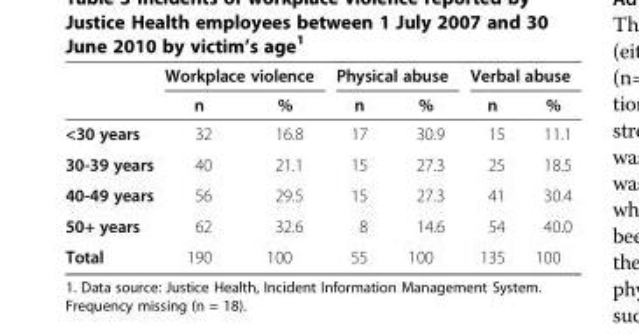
<table><thead><tr><td rowspan="2"></td><td colspan="2">Workplace violence</td><td colspan="2">Physical abuse</td><td colspan="2">Verbal abuse</td></tr><tr><td>n</td><td>%</td><td>n</td><td>%</td><td>n</td><td>%</td></tr></thead><tbody><tr><td>&lt;30 years</td><td>32</td><td>16.8</td><td>17</td><td>30.9</td><td>15</td><td>11.1</td></tr><tr><td>30-39 years</td><td>40</td><td>21.1</td><td>15</td><td>27.3</td><td>25</td><td>18.5</td></tr><tr><td>40-49 years</td><td>56</td><td>29.5</td><td>15</td><td>27.3</td><td>41</td><td>30.4</td></tr><tr><td>50+ years</td><td>62</td><td>32.6</td><td>8</td><td>14.6</td><td>54</td><td>40.0</td></tr><tr><td>Total</td><td>190</td><td>100</td><td>55</td><td>100</td><td>135</td><td>100</td></tr></tbody></table>